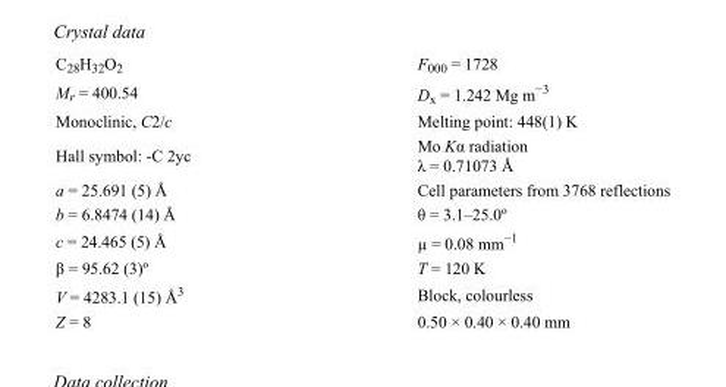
<table><tbody><tr><td>C<sub>28</sub>H<sub>32</sub>O<sub>2</sub></td><td>F000 = 1728</td></tr><tr><td>M<sub>r</sub> = 400.54</td><td>D<sub>x</sub> = 1.242 Mg m<sup>−3</sup></td></tr><tr><td>Monoclinic, C2/c</td><td>Melting point: 448(1) K</td></tr><tr><td>Hall symbol: -C 2yc</td><td>Mo Kα radiation λ = 0.71073 Å</td></tr><tr><td>a = 25.691 (5) Å</td><td>Cell parameters from 3768 reflections</td></tr><tr><td>b = 6.8474 (14) Å</td><td>θ = 3.1–25.0º</td></tr><tr><td>c = 24.465 (5) Å</td><td>µ = 0.08 mm<sup>−1</sup></td></tr><tr><td>β = 95.62 (3)º</td><td>T = 120 K</td></tr><tr><td>V = 4283.1 (15) Å<sup>3</sup></td><td>Block, colourless</td></tr><tr><td>Z = 8</td><td>0.50 × 0.40 × 0.40 mm</td></tr></tbody></table>